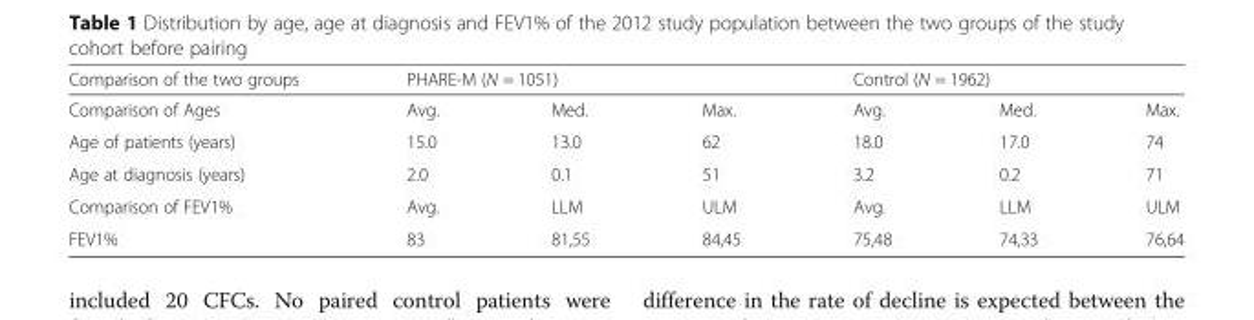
<table><thead><tr><td rowspan="2">Comparison of the two groups Comparison of Ages</td><td colspan="3">PHARE-M (N = 1051)</td><td colspan="3">Control (N = 1962)</td></tr><tr><td>Avg.</td><td>Med.</td><td>Max.</td><td>Avg.</td><td>Med.</td><td>Max.</td></tr></thead><tbody><tr><td>Age of patients (years)</td><td>15.0</td><td>13.0</td><td>62</td><td>18.0</td><td>17.0</td><td>74</td></tr><tr><td>Age at diagnosis (years)</td><td>2.0</td><td>0.1</td><td>51</td><td>3.2</td><td>0.2</td><td>71</td></tr><tr><td>Comparison of FEV1%</td><td>Avg.</td><td>LLM</td><td>ULM</td><td>Avg.</td><td>LLM</td><td>ULM</td></tr><tr><td>FEV1%</td><td>83</td><td>81,55</td><td>84,45</td><td>75,48</td><td>74,33</td><td>76,64</td></tr></tbody></table>